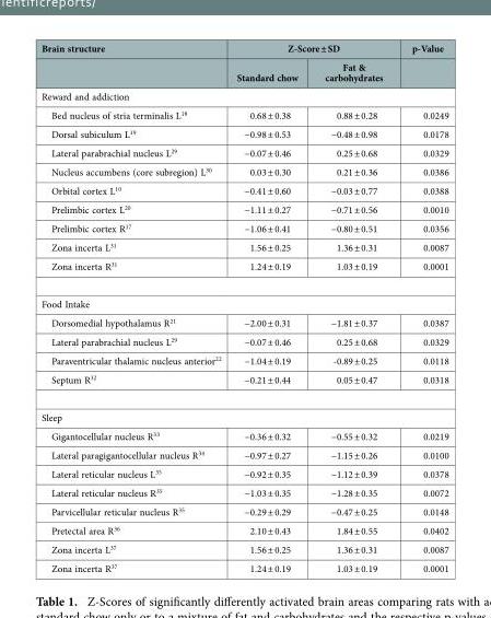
<table><thead><tr><td rowspan="2">Brain structure</td><td colspan="2">Z-Score ± SD</td><td rowspan="2">p-Value</td></tr><tr><td>Standard chow</td><td>Fat &amp; carbohydrates</td></tr></thead><tbody><tr><td colspan="4">Reward and addiction</td></tr><tr><td>Bed nucleus of stria terminalis L18</td><td>0.68 ± 0.38</td><td>0.88 ± 0.28</td><td>0.0249</td></tr><tr><td>Dorsal subiculum L19</td><td>−0.98 ± 0.53</td><td>−0.48 ± 0.98</td><td>0.0178</td></tr><tr><td>Lateral parabrachial nucleus L29</td><td>−0.07 ± 0.46</td><td>0.25 ± 0.68</td><td>0.0329</td></tr><tr><td>Nucleus accumbens (core subregion) L30</td><td>0.03 ± 0.30</td><td>0.21 ± 0.36</td><td>0.0386</td></tr><tr><td>Orbital cortex L10</td><td>−0.41 ± 0.60</td><td>−0.03 ± 0.77</td><td>0.0388</td></tr><tr><td>Prelimbic cortex L20</td><td>−1.11 ± 0.27</td><td>−0.71 ± 0.56</td><td>0.0010</td></tr><tr><td>Prelimbic cortex R17</td><td>−1.06 ± 0.41</td><td>−0.80 ± 0.51</td><td>0.0356</td></tr><tr><td>Zona incerta L31</td><td>1.56 ± 0.25</td><td>1.36 ± 0.31</td><td>0.0087</td></tr><tr><td>Zona incerta R31</td><td>1.24 ± 0.19</td><td>1.03 ± 0.19</td><td>0.0001</td></tr><tr><td colspan="4">Food Intake</td></tr><tr><td>Dorsomedial hypothalamus R21</td><td>−2.00 ± 0.31</td><td>−1.81 ± 0.37</td><td>0.0387</td></tr><tr><td>Lateral parabrachial nucleus L29</td><td>−0.07 ± 0.46</td><td>0.25 ± 0.68</td><td>0.0329</td></tr><tr><td>Paraventricular thalamic nucleus anterior22</td><td>−1.04 ± 0.19</td><td>-0.89 ± 0.25</td><td>0.0118</td></tr><tr><td>Septum R32</td><td>−0.21 ± 0.44</td><td>0.05 ± 0.47</td><td>0.0318</td></tr><tr><td colspan="4">Sleep</td></tr><tr><td>Gigantocellular nucleus R33</td><td>−0.36 ± 0.32</td><td>−0.55 ± 0.32</td><td>0.0219</td></tr><tr><td>Lateral paragigantocellular nucleus R34</td><td>−0.97 ± 0.27</td><td>−1.15 ± 0.26</td><td>0.0100</td></tr><tr><td>Lateral reticular nucleus L35</td><td>−0.92 ± 0.35</td><td>−1.12 ± 0.39</td><td>0.0378</td></tr><tr><td>Lateral reticular nucleus R35</td><td>−1.03 ± 0.35</td><td>−1.28 ± 0.35</td><td>0.0072</td></tr><tr><td>Parvicellular reticular nucleus R35</td><td>−0.29 ± 0.29</td><td>−0.47 ± 0.25</td><td>0.0148</td></tr><tr><td>Pretectal area R36</td><td>2.10 ± 0.43</td><td>1.84 ± 0.55</td><td>0.0402</td></tr><tr><td>Zona incerta L37</td><td>1.56 ± 0.25</td><td>1.36 ± 0.31</td><td>0.0087</td></tr><tr><td>Zona incerta R37</td><td>1.24 ± 0.19</td><td>1.03 ± 0.19</td><td>0.0001</td></tr></tbody></table>